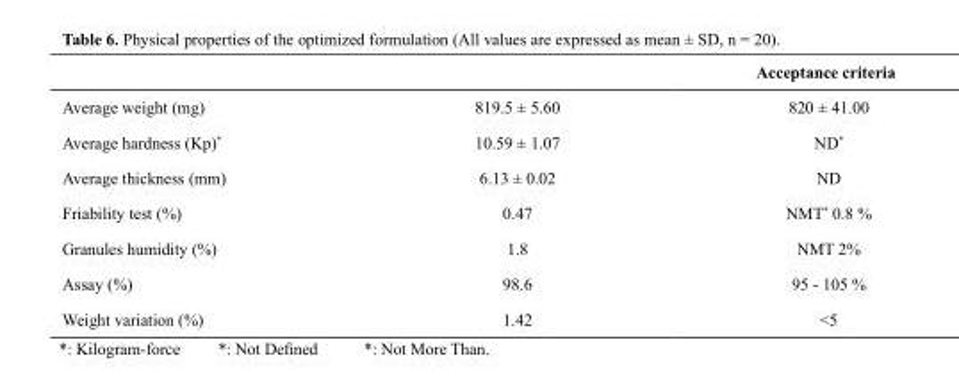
<table><thead><tr><td colspan="3">Acceptance criteria</td></tr><tr><td>Average weight (mg)</td><td>819.5 ± 5.60</td><td>820 ± 41.00</td></tr></thead><tbody><tr><td>Average hardness (Kp)*</td><td>10.59 ± 1.07</td><td>ND*</td></tr><tr><td>Average thickness (mm)</td><td>6.13 ± 0.02</td><td>ND</td></tr><tr><td>Friability test (%)</td><td>0.47</td><td>NMT* 0.8 %</td></tr><tr><td>Granules humidity (%)</td><td>1.8</td><td>NMT 2%</td></tr><tr><td>Assay (%)</td><td>98.6</td><td>95 - 105 %</td></tr><tr><td>Weight variation (%)</td><td>1.42</td><td>&lt;5</td></tr></tbody></table>